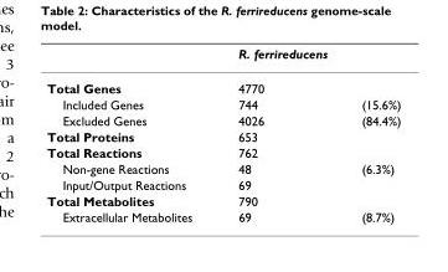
<table><thead><tr><td></td><td>R. ferrireducens</td><td></td></tr></thead><tbody><tr><td>Total Genes</td><td>4770</td><td></td></tr><tr><td>Included Genes</td><td>744</td><td>(15.6%)</td></tr><tr><td>Excluded Genes</td><td>4026</td><td>(84.4%)</td></tr><tr><td>Total Proteins</td><td>653</td><td></td></tr><tr><td>Total Reactions</td><td>762</td><td></td></tr><tr><td>Non-gene Reactions</td><td>48</td><td>(6.3%)</td></tr><tr><td>Input/Output Reactions</td><td>69</td><td></td></tr><tr><td>Total Metabolites</td><td>790</td><td></td></tr><tr><td>Extracellular Metabolites</td><td>69</td><td>(8.7%)</td></tr></tbody></table>